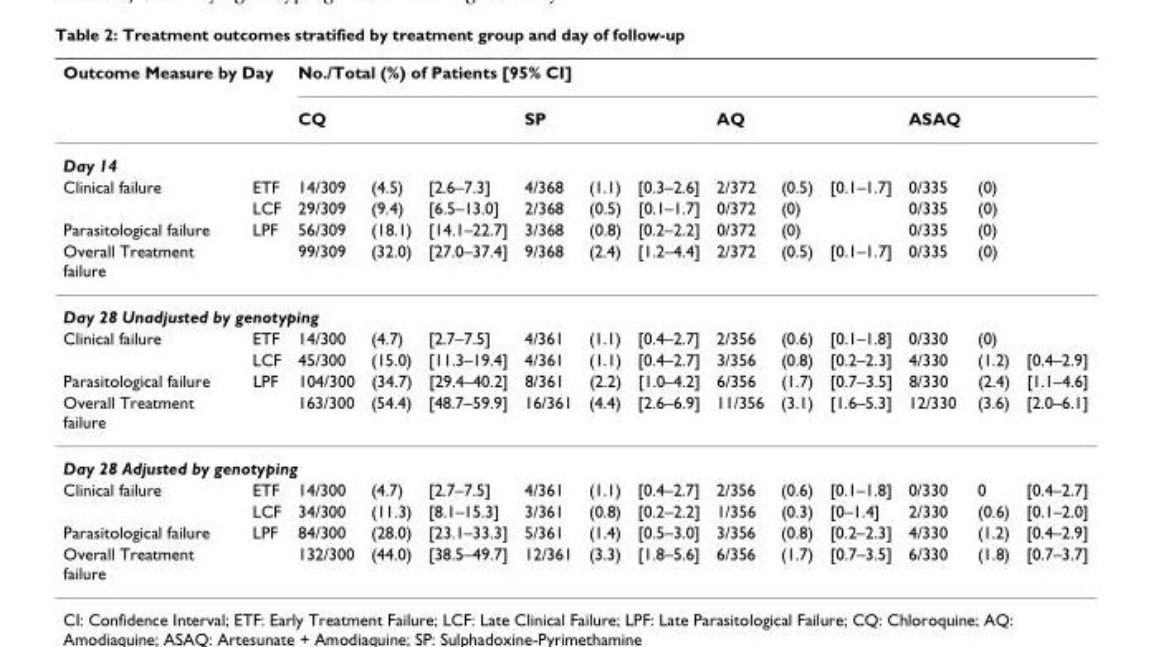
<table><thead><tr><td colspan="2">Outcome Measure by Day</td><td colspan="12">No./Total (%) of Patients [95% CI]</td></tr><tr><td></td><td></td><td>CQ</td><td></td><td></td><td>SP</td><td></td><td></td><td>AQ</td><td></td><td></td><td>ASAQ</td><td></td><td></td></tr></thead><tbody><tr><td colspan="14">Day 14</td></tr><tr><td rowspan="2">Clinical failure</td><td>ETF</td><td>14/309</td><td>(4.5)</td><td>[2.6–7.3]</td><td>4/368</td><td>(1.1)</td><td>[0.3–2.6]</td><td>2/372</td><td>(0.5)</td><td>[0.1–1.7]</td><td>0/335</td><td>(0)</td><td></td></tr><tr><td>LCF</td><td>29/309</td><td>(9.4)</td><td>[6.5–13.0]</td><td>2/368</td><td>(0.5)</td><td>[0.1–1.7]</td><td>0/372</td><td>(0)</td><td></td><td>0/335</td><td>(0)</td><td></td></tr><tr><td>Parasitological failure</td><td>LPF</td><td>56/309</td><td>(18.1)</td><td>[14.1–22.7]</td><td>3/368</td><td>(0.8)</td><td>[0.2–2.2]</td><td>0/372</td><td>(0)</td><td></td><td>0/335</td><td>(0)</td><td></td></tr><tr><td>Overall Treatment failure</td><td></td><td>99/309</td><td>(32.0)</td><td>[27.0–37.4]</td><td>9/368</td><td>(2.4)</td><td>[1.2–4.4]</td><td>2/372</td><td>(0.5)</td><td>[0.1–1.7]</td><td>0/335</td><td>(0)</td><td></td></tr><tr><td colspan="14">Day 28 Unadjusted by genotyping</td></tr><tr><td rowspan="2">Clinical failure</td><td>ETF</td><td>14/300</td><td>(4.7)</td><td>[2.7–7.5]</td><td>4/361</td><td>(1.1)</td><td>[0.4–2.7]</td><td>2/356</td><td>(0.6)</td><td>[0.1–1.8]</td><td>0/330</td><td>(0)</td><td></td></tr><tr><td>LCF</td><td>45/300</td><td>(15.0)</td><td>[11.3–19.4]</td><td>4/361</td><td>(1.1)</td><td>[0.4–2.7]</td><td>3/356</td><td>(0.8)</td><td>[0.2–2.3]</td><td>4/330</td><td>(1.2)</td><td>[0.4–2.9]</td></tr><tr><td>Parasitological failure</td><td>LPF</td><td>104/300</td><td>(34.7)</td><td>[29.4–40.2]</td><td>8/361</td><td>(2.2)</td><td>[1.0–4.2]</td><td>6/356</td><td>(1.7)</td><td>[0.7–3.5]</td><td>8/330</td><td>(2.4)</td><td>[1.1–4.6]</td></tr><tr><td>Overall Treatment failure</td><td></td><td>163/300</td><td>(54.4)</td><td>[48.7–59.9]</td><td>16/361</td><td>(4.4)</td><td>[2.6–6.9]</td><td>11/356</td><td>(3.1)</td><td>[1.6–5.3]</td><td>12/330</td><td>(3.6)</td><td>[2.0–6.1]</td></tr><tr><td colspan="14">Day 28 Adjusted by genotyping</td></tr><tr><td rowspan="2">Clinical failure</td><td>ETF</td><td>14/300</td><td>(4.7)</td><td>[2.7–7.5]</td><td>4/361</td><td>(1.1)</td><td>[0.4–2.7]</td><td>2/356</td><td>(0.6)</td><td>[0.1–1.8]</td><td>0/330</td><td>0</td><td>[0.4–2.7]</td></tr><tr><td>LCF</td><td>34/300</td><td>(11.3)</td><td>[8.1–15.3]</td><td>3/361</td><td>(0.8)</td><td>[0.2–2.2]</td><td>1/356</td><td>(0.3)</td><td>[0–1.4]</td><td>2/330</td><td>(0.6)</td><td>[0.1–2.0]</td></tr><tr><td>Parasitological failure</td><td>LPF</td><td>84/300</td><td>(28.0)</td><td>[23.1–33.3]</td><td>5/361</td><td>(1.4)</td><td>[0.5–3.0]</td><td>3/356</td><td>(0.8)</td><td>[0.2–2.3]</td><td>4/330</td><td>(1.2)</td><td>[0.4–2.9]</td></tr><tr><td>Overall Treatment failure</td><td></td><td>132/300</td><td>(44.0)</td><td>[38.5–49.7]</td><td>12/361</td><td>(3.3)</td><td>[1.8–5.6]</td><td>6/356</td><td>(1.7)</td><td>[0.7–3.5]</td><td>6/330</td><td>(1.8)</td><td>[0.7–3.7]</td></tr></tbody></table>